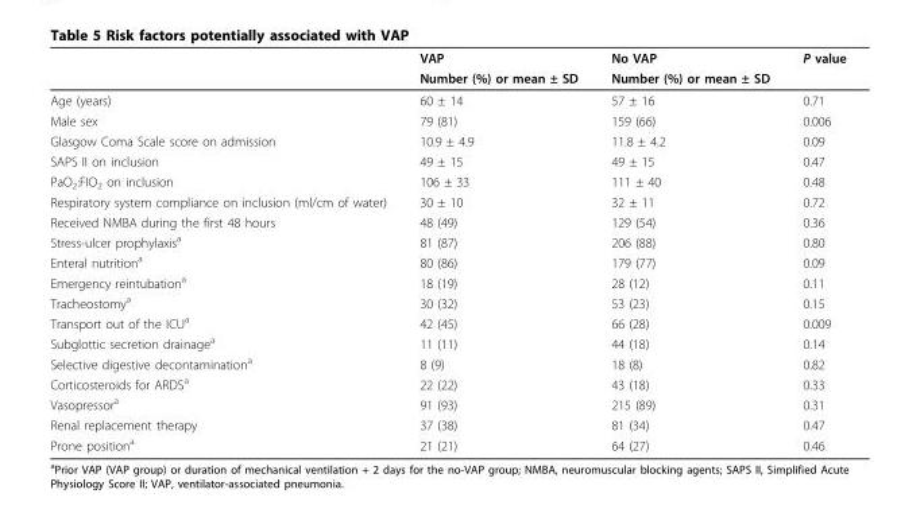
<table><thead><tr><td rowspan="2"></td><td rowspan="2">VAP Number (%) or mean ± SD</td><td rowspan="2">No VAP Number (%) or mean ± SD</td><td rowspan="2">P value</td></tr><tr></tr></thead><tbody><tr><td>Age (years)</td><td>60 ± 14</td><td>57 ± 16</td><td>0.71</td></tr><tr><td>Male sex</td><td>79 (81)</td><td>159 (66)</td><td>0.006</td></tr><tr><td>Glasgow Coma Scale score on admission</td><td>10.9 ± 4.9</td><td>11.8 ± 4.2</td><td>0.09</td></tr><tr><td>SAPS II on inclusion</td><td>49 ± 15</td><td>49 ± 15</td><td>0.47</td></tr><tr><td>PaO<sub>2</sub>:FIO<sub>2</sub> on inclusion</td><td>106 ± 33</td><td>111 ± 40</td><td>0.48</td></tr><tr><td>Respiratory system compliance on inclusion (ml/cm of water)</td><td>30 ± 10</td><td>32 ± 11</td><td>0.72</td></tr><tr><td>Received NMBA during the first 48 hours</td><td>48 (49)</td><td>129 (54)</td><td>0.36</td></tr><tr><td>Stress-ulcer prophylaxis<sup>a</sup></td><td>81 (87)</td><td>206 (88)</td><td>0.80</td></tr><tr><td>Enteral nutrition<sup>a</sup></td><td>80 (86)</td><td>179 (77)</td><td>0.09</td></tr><tr><td>Emergency reintubation<sup>a</sup></td><td>18 (19)</td><td>28 (12)</td><td>0.11</td></tr><tr><td>Tracheostomy<sup>a</sup></td><td>30 (32)</td><td>53 (23)</td><td>0.15</td></tr><tr><td>Transport out of the ICU<sup>a</sup></td><td>42 (45)</td><td>66 (28)</td><td>0.009</td></tr><tr><td>Subglottic secretion drainage<sup>a</sup></td><td>11 (11)</td><td>44 (18)</td><td>0.14</td></tr><tr><td>Selective digestive decontamination<sup>a</sup></td><td>8 (9)</td><td>18 (8)</td><td>0.82</td></tr><tr><td>Corticosteroids for ARDS<sup>a</sup></td><td>22 (22)</td><td>43 (18)</td><td>0.33</td></tr><tr><td>Vasopressor<sup>a</sup></td><td>91 (93)</td><td>215 (89)</td><td>0.31</td></tr><tr><td>Renal replacement therapy</td><td>37 (38)</td><td>81 (34)</td><td>0.47</td></tr><tr><td>Prone position<sup>a</sup></td><td>21 (21)</td><td>64 (27)</td><td>0.46</td></tr></tbody></table>